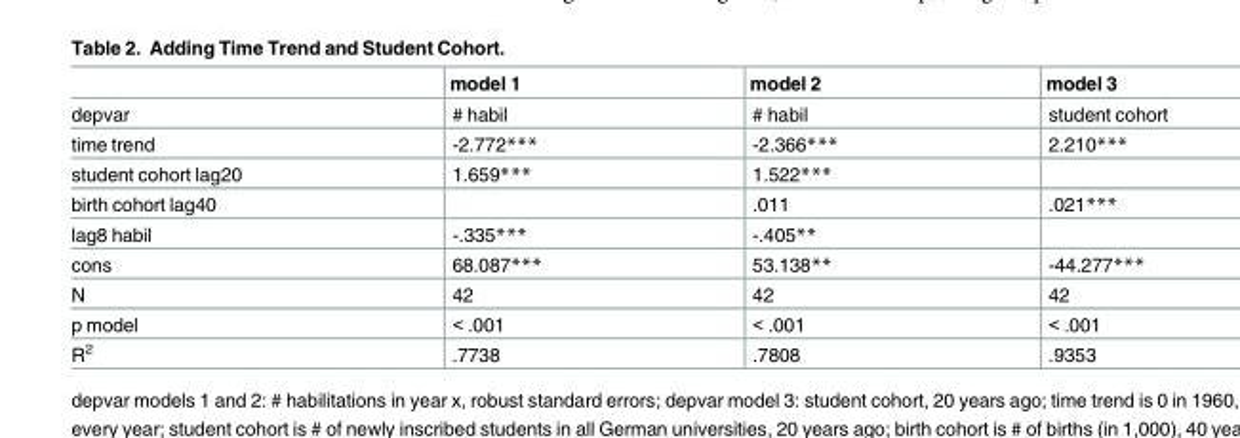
<table><thead><tr><td></td><td>model 1</td><td>model 2</td><td>model 3</td></tr></thead><tbody><tr><td>depvar</td><td># habil</td><td># habil</td><td>student cohort</td></tr><tr><td>time trend</td><td>-2.772***</td><td>-2.366***</td><td>2.210***</td></tr><tr><td>student cohort lag20</td><td>1.659***</td><td>1.522***</td><td></td></tr><tr><td>birth cohort lag40</td><td></td><td>.011</td><td>.021***</td></tr><tr><td>lag8 habil</td><td>-.335***</td><td>-.405**</td><td></td></tr><tr><td>cons</td><td>68.087***</td><td>53.138**</td><td>-44.277***</td></tr><tr><td>N</td><td>42</td><td>42</td><td>42</td></tr><tr><td>p model</td><td>&lt; .001</td><td>&lt; .001</td><td>&lt; .001</td></tr><tr><td>R<sup>2</sup></td><td>.7738</td><td>.7808</td><td>.9353</td></tr></tbody></table>